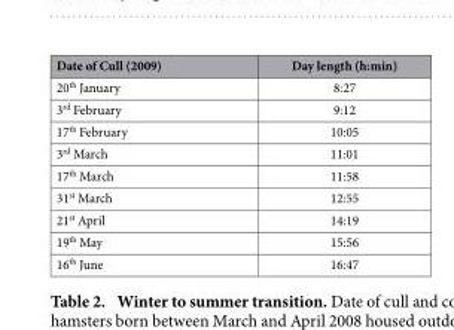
<table><thead><tr><td>Date of Cull (2009)</td><td>Day length (h:min)</td></tr></thead><tbody><tr><td>20<sup>th</sup> January</td><td>8:27</td></tr><tr><td>3<sup>rd</sup> February</td><td>9:12</td></tr><tr><td>17<sup>th</sup> February</td><td>10:05</td></tr><tr><td>3<sup>rd</sup> March</td><td>11:01</td></tr><tr><td>17<sup>th</sup> March</td><td>11:58</td></tr><tr><td>31<sup>st</sup> March</td><td>12:55</td></tr><tr><td>21<sup>st</sup> April</td><td>14:19</td></tr><tr><td>19<sup>th</sup> May</td><td>15:56</td></tr><tr><td>16<sup>th</sup> June</td><td>16:47</td></tr></tbody></table>